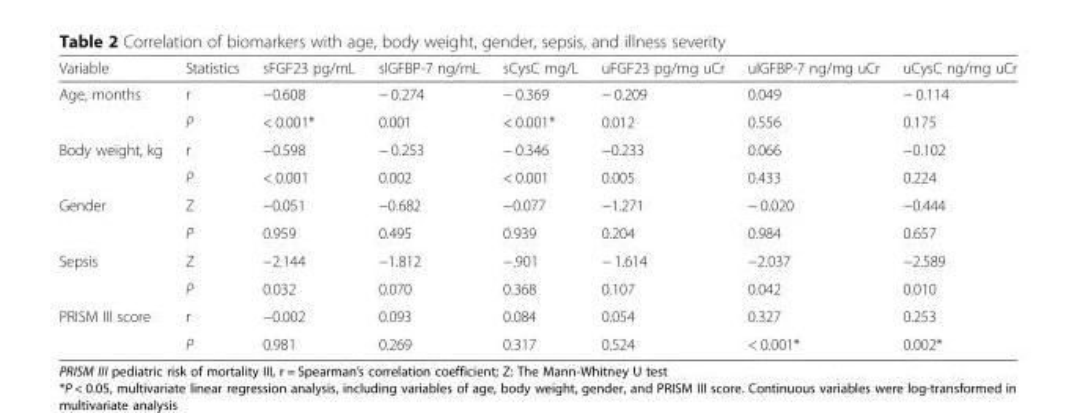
<table><thead><tr><td>Variable</td><td>Statistics</td><td>sFGF23 pg/mL</td><td>sIGFBP-7 ng/mL</td><td>sCysC mg/L</td><td>uFGF23 pg/mg uCr</td><td>uIGFBP-7 ng/mg uCr</td><td>uCysC ng/mg uCr</td></tr></thead><tbody><tr><td rowspan="2">Age, months</td><td>r</td><td>−0.608</td><td>− 0.274</td><td>− 0.369</td><td>− 0.209</td><td>0.049</td><td>− 0.114</td></tr><tr><td>P</td><td>&lt; 0.001*</td><td>0.001</td><td>&lt; 0.001*</td><td>0.012</td><td>0.556</td><td>0.175</td></tr><tr><td rowspan="2">Body weight, kg</td><td>r</td><td>−0.598</td><td>− 0.253</td><td>− 0.346</td><td>−0.233</td><td>0.066</td><td>−0.102</td></tr><tr><td>P</td><td>&lt; 0.001</td><td>0.002</td><td>&lt; 0.001</td><td>0.005</td><td>0.433</td><td>0.224</td></tr><tr><td rowspan="2">Gender</td><td>Z</td><td>−0.051</td><td>−0.682</td><td>−0.077</td><td>−1.271</td><td>− 0.020</td><td>−0.444</td></tr><tr><td>P</td><td>0.959</td><td>0.495</td><td>0.939</td><td>0.204</td><td>0.984</td><td>0.657</td></tr><tr><td rowspan="2">Sepsis</td><td>Z</td><td>−2.144</td><td>−1.812</td><td>−.901</td><td>− 1.614</td><td>−2.037</td><td>−2.589</td></tr><tr><td>P</td><td>0.032</td><td>0.070</td><td>0.368</td><td>0.107</td><td>0.042</td><td>0.010</td></tr><tr><td rowspan="2">PRISM III score</td><td>r</td><td>−0.002</td><td>0.093</td><td>0.084</td><td>0.054</td><td>0.327</td><td>0.253</td></tr><tr><td>P</td><td>0.981</td><td>0.269</td><td>0.317</td><td>0.524</td><td>&lt; 0.001*</td><td>0.002*</td></tr></tbody></table>